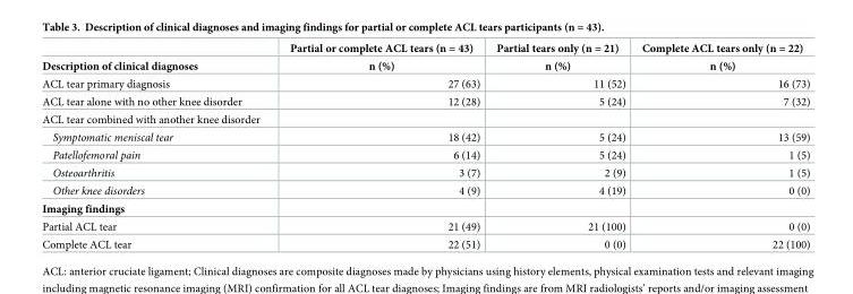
<table><thead><tr><td rowspan="2">Description of clinical diagnoses</td><td rowspan="2">Partial or complete ACL tears (n = 43) n (%)</td><td rowspan="2">Partial tears only (n = 21) n (%)</td><td rowspan="2">Complete ACL tears only (n = 22) n (%)</td></tr><tr></tr></thead><tbody><tr><td>ACL tear primary diagnosis</td><td>27 (63)</td><td>11 (52)</td><td>16 (73)</td></tr><tr><td>ACL tear alone with no other knee disorder</td><td>12 (28)</td><td>5 (24)</td><td>7 (32)</td></tr><tr><td colspan="4">ACL tear combined with another knee disorder</td></tr><tr><td>Symptomatic meniscal tear</td><td>18 (42)</td><td>5 (24)</td><td>13 (59)</td></tr><tr><td>Patellofemoral pain</td><td>6 (14)</td><td>5 (24)</td><td>1 (5)</td></tr><tr><td>Osteoarthritis</td><td>3 (7)</td><td>2 (9)</td><td>1 (5)</td></tr><tr><td>Other knee disorders</td><td>4 (9)</td><td>4 (19)</td><td>0 (0)</td></tr><tr><td colspan="4">Imaging findings</td></tr><tr><td>Partial ACL tear</td><td>21 (49)</td><td>21 (100)</td><td>0 (0)</td></tr><tr><td>Complete ACL tear</td><td>22 (51)</td><td>0 (0)</td><td>22 (100)</td></tr></tbody></table>